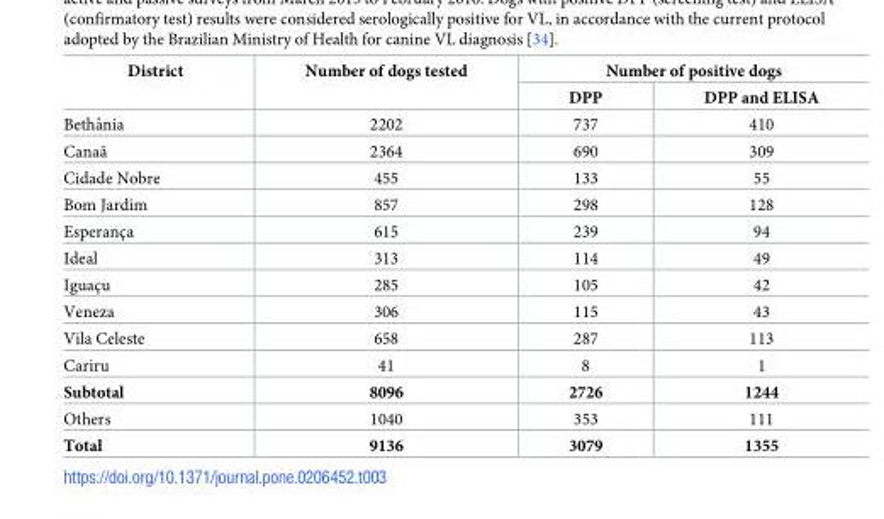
<table><thead><tr><td rowspan="2">District</td><td rowspan="2">Number of dogs tested</td><td colspan="2">Number of positive dogs</td></tr><tr><td>DPP</td><td>DPP and ELISA</td></tr></thead><tbody><tr><td>Bethaˆnia</td><td>2202</td><td>737</td><td>410</td></tr><tr><td>Canaã</td><td>2364</td><td>690</td><td>309</td></tr><tr><td>Cidade Nobre</td><td>455</td><td>133</td><td>55</td></tr><tr><td>Bom Jardim</td><td>857</td><td>298</td><td>128</td></tr><tr><td>Esperanc¸a</td><td>615</td><td>239</td><td>94</td></tr><tr><td>Ideal</td><td>313</td><td>114</td><td>49</td></tr><tr><td>Iguac¸u</td><td>285</td><td>105</td><td>42</td></tr><tr><td>Veneza</td><td>306</td><td>115</td><td>43</td></tr><tr><td>Vila Celeste</td><td>658</td><td>287</td><td>113</td></tr><tr><td>Cariru</td><td>41</td><td>8</td><td>1</td></tr><tr><td>Subtotal</td><td>8096</td><td>2726</td><td>1244</td></tr><tr><td>Others</td><td>1040</td><td>353</td><td>111</td></tr><tr><td>Total</td><td>9136</td><td>3079</td><td>1355</td></tr></tbody></table>